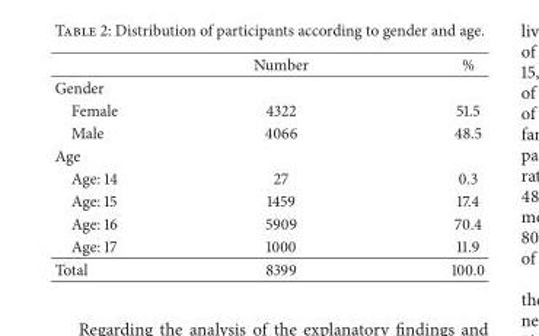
<table><thead><tr><td></td><td>Number</td><td>%</td></tr></thead><tbody><tr><td colspan="3">Gender</td></tr><tr><td>Female</td><td>4322</td><td>51.5</td></tr><tr><td>Male</td><td>4066</td><td>48.5</td></tr><tr><td colspan="3">Age</td></tr><tr><td>Age: 14</td><td>27</td><td>0.3</td></tr><tr><td>Age: 15</td><td>1459</td><td>17.4</td></tr><tr><td>Age: 16</td><td>5909</td><td>70.4</td></tr><tr><td>Age: 17</td><td>1000</td><td>11.9</td></tr><tr><td>Total</td><td>8399</td><td>100.0</td></tr></tbody></table>